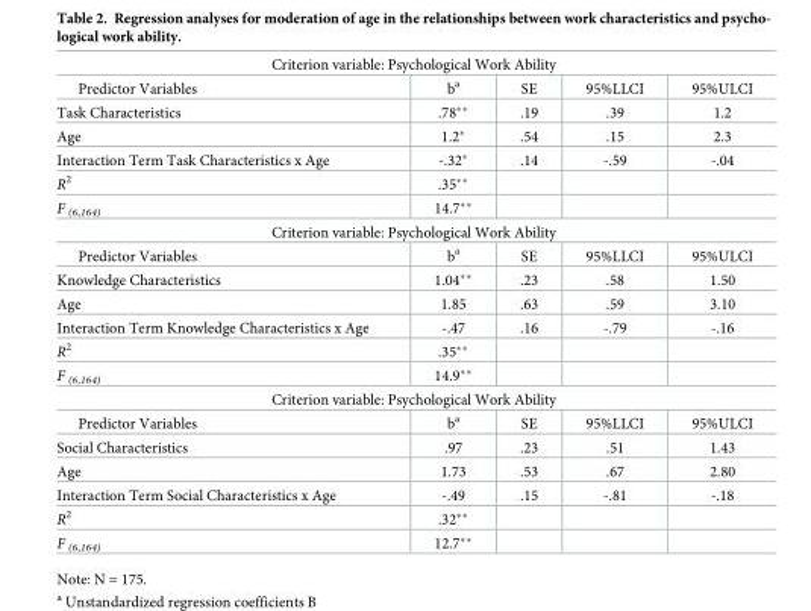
<table><tbody><tr><td colspan="5">Criterion variable: Psychological Work Ability</td></tr><tr><td>Predictor Variables</td><td>b<sup>a</sup></td><td>SE</td><td>95%LLCI</td><td>95%ULCI</td></tr><tr><td>Task Characteristics</td><td>.78**</td><td>.19</td><td>.39</td><td>1.2</td></tr><tr><td>Age</td><td>1.2*</td><td>.54</td><td>.15</td><td>2.3</td></tr><tr><td>Interaction Term Task Characteristics x Age</td><td>-.32*</td><td>.14</td><td>-.59</td><td>-.04</td></tr><tr><td>R<sup>2</sup></td><td>.35**</td><td></td><td></td><td></td></tr><tr><td>F <sub>(6,164)</sub></td><td>14.7**</td><td></td><td></td><td></td></tr><tr><td colspan="5">Criterion variable: Psychological Work Ability</td></tr><tr><td>Predictor Variables</td><td>b<sup>a</sup></td><td>SE</td><td>95%LLCI</td><td>95%ULCI</td></tr><tr><td>Knowledge Characteristics</td><td>1.04**</td><td>.23</td><td>.58</td><td>1.50</td></tr><tr><td>Age</td><td>1.85</td><td>.63</td><td>.59</td><td>3.10</td></tr><tr><td>Interaction Term Knowledge Characteristics x Age</td><td>-.47</td><td>.16</td><td>-.79</td><td>-.16</td></tr><tr><td>R<sup>2</sup></td><td>.35**</td><td></td><td></td><td></td></tr><tr><td>F <sub>(6,164)</sub></td><td>14.9**</td><td></td><td></td><td></td></tr><tr><td colspan="5">Criterion variable: Psychological Work Ability</td></tr><tr><td>Predictor Variables</td><td>b<sup>a</sup></td><td>SE</td><td>95%LLCI</td><td>95%ULCI</td></tr><tr><td>Social Characteristics</td><td>.97</td><td>.23</td><td>.51</td><td>1.43</td></tr><tr><td>Age</td><td>1.73</td><td>.53</td><td>.67</td><td>2.80</td></tr><tr><td>Interaction Term Social Characteristics x Age</td><td>-.49</td><td>.15</td><td>-.81</td><td>-.18</td></tr><tr><td>R<sup>2</sup></td><td>.32**</td><td></td><td></td><td></td></tr><tr><td>F <sub>(6,164)</sub></td><td>12.7**</td><td></td><td></td><td></td></tr></tbody></table>